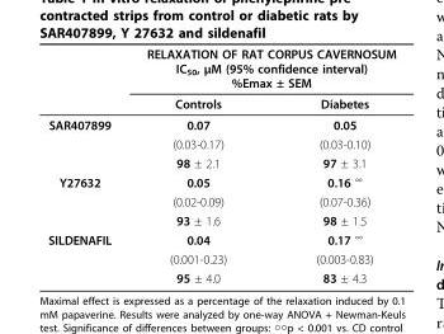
<table><thead><tr><td rowspan="2"></td><td colspan="2">RELAXATION OF RAT CORPUS CAVERNOSUM IC<sub>50</sub>, μM (95% confidence interval) %Emax ± SEM</td></tr><tr><td>Controls</td><td>Diabetes</td></tr></thead><tbody><tr><td rowspan="3">SAR407899</td><td>0.07</td><td>0.05</td></tr><tr><td>(0.03-0.17)</td><td>(0.03-0.10)</td></tr><tr><td>98 ± 2.1</td><td>97 ± 3.1</td></tr><tr><td rowspan="3">Y27632</td><td>0.05</td><td>0.16 °°</td></tr><tr><td>(0.02-0.09)</td><td>(0.07-0.36)</td></tr><tr><td>93 ± 1.6</td><td>98 ± 1.5</td></tr><tr><td rowspan="3">SILDENAFIL</td><td>0.04</td><td>0.17 °°</td></tr><tr><td>(0.001-0.23)</td><td>(0.003-0.83)</td></tr><tr><td>95 ± 4.0</td><td>83 ± 4.3</td></tr></tbody></table>